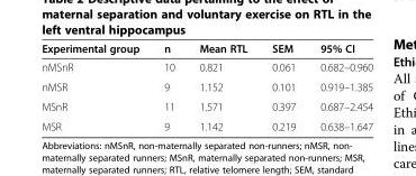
<table><thead><tr><td>Experimental group</td><td>n</td><td>Mean RTL</td><td>SEM</td><td>95% CI</td></tr></thead><tbody><tr><td>nMSnR</td><td>10</td><td>0.821</td><td>0.061</td><td>0.682–0.960</td></tr><tr><td>nMSR</td><td>9</td><td>1.152</td><td>0.101</td><td>0.919–1.385</td></tr><tr><td>MSnR</td><td>11</td><td>1.571</td><td>0.397</td><td>0.687–2.454</td></tr><tr><td>MSR</td><td>9</td><td>1.142</td><td>0.219</td><td>0.638–1.647</td></tr></tbody></table>